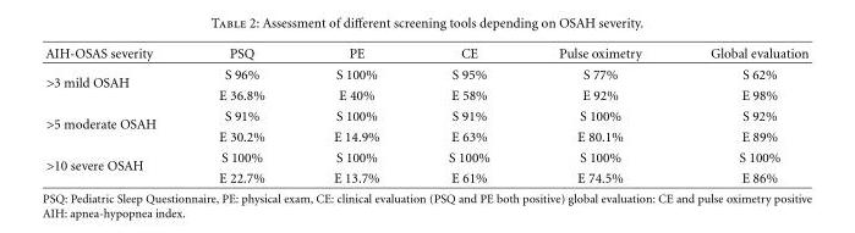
<table><thead><tr><td>AIH-OSAS severity</td><td>PSQ</td><td>PE</td><td>CE</td><td>Pulse oximetry</td><td>Global evaluation</td></tr></thead><tbody><tr><td rowspan="2">&gt;3 mild OSAH</td><td>S 96%</td><td>S 100%</td><td>S 95%</td><td>S 77%</td><td>S 62%</td></tr><tr><td>E 36.8%</td><td>E 40%</td><td>E 58%</td><td>E 92%</td><td>E 98%</td></tr><tr><td rowspan="2">&gt;5 moderate OSAH</td><td>S 91%</td><td>S 100%</td><td>S 91%</td><td>S 100%</td><td>S 92%</td></tr><tr><td>E 30.2%</td><td>E 14.9%</td><td>E 63%</td><td>E 80.1%</td><td>E 89%</td></tr><tr><td rowspan="2">&gt;10 severe OSAH</td><td>S 100%</td><td>S 100%</td><td>S 100%</td><td>S 100%</td><td>S 100%</td></tr><tr><td>E 22.7%</td><td>E 13.7%</td><td>E 61%</td><td>E 74.5%</td><td>E 86%</td></tr></tbody></table>